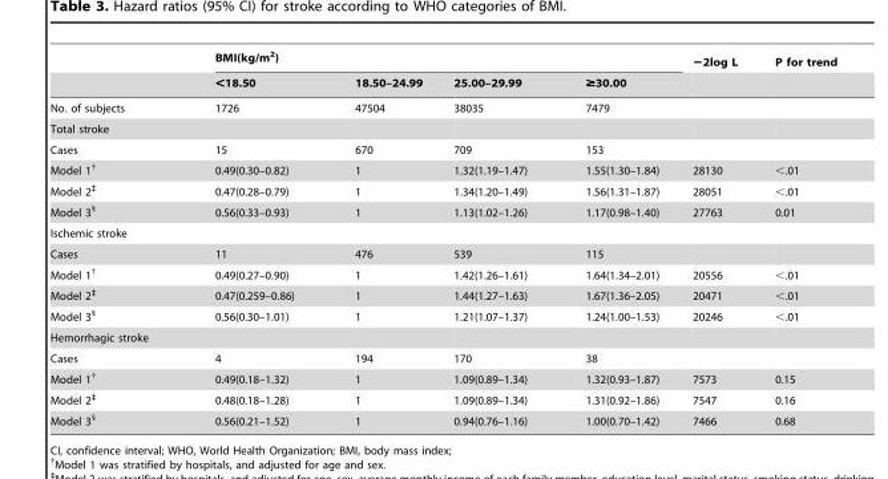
<table><thead><tr><td rowspan="2"></td><td colspan="4">BMI(kg/m<sup>2</sup>)</td><td rowspan="2">−2log L</td><td rowspan="2">P for trend</td></tr><tr><td>&lt;18.50</td><td>18.50–24.99</td><td>25.00–29.99</td><td>≥30.00</td></tr></thead><tbody><tr><td>No. of subjects</td><td>1726</td><td>47504</td><td>38035</td><td>7479</td><td></td><td></td></tr><tr><td colspan="7">Total stroke</td></tr><tr><td>Cases</td><td>15</td><td>670</td><td>709</td><td>153</td><td></td><td></td></tr><tr><td>Model 1†</td><td>0.49(0.30–0.82)</td><td>1</td><td>1.32(1.19–1.47)</td><td>1.55(1.30–1.84)</td><td>28130</td><td>&lt;.01</td></tr><tr><td>Model 2‡</td><td>0.47(0.28–0.79)</td><td>1</td><td>1.34(1.20–1.49)</td><td>1.56(1.31–1.87)</td><td>28051</td><td>&lt;.01</td></tr><tr><td>Model 3§</td><td>0.56(0.33–0.93)</td><td>1</td><td>1.13(1.02–1.26)</td><td>1.17(0.98–1.40)</td><td>27763</td><td>0.01</td></tr><tr><td colspan="7">Ischemic stroke</td></tr><tr><td>Cases</td><td>11</td><td>476</td><td>539</td><td>115</td><td></td><td></td></tr><tr><td>Model 1†</td><td>0.49(0.27–0.90)</td><td>1</td><td>1.42(1.26–1.61)</td><td>1.64(1.34–2.01)</td><td>20556</td><td>&lt;.01</td></tr><tr><td>Model 2‡</td><td>0.47(0.259–0.86)</td><td>1</td><td>1.44(1.27–1.63)</td><td>1.67(1.36–2.05)</td><td>20471</td><td>&lt;.01</td></tr><tr><td>Model 3§</td><td>0.56(0.30–1.01)</td><td>1</td><td>1.21(1.07–1.37)</td><td>1.24(1.00–1.53)</td><td>20246</td><td>&lt;.01</td></tr><tr><td colspan="7">Hemorrhagic stroke</td></tr><tr><td>Cases</td><td>4</td><td>194</td><td>170</td><td>38</td><td></td><td></td></tr><tr><td>Model 1†</td><td>0.49(0.18–1.32)</td><td>1</td><td>1.09(0.89–1.34)</td><td>1.32(0.93–1.87)</td><td>7573</td><td>0.15</td></tr><tr><td>Model 2‡</td><td>0.48(0.18–1.28)</td><td>1</td><td>1.09(0.89–1.34)</td><td>1.31(0.92–1.86)</td><td>7547</td><td>0.16</td></tr><tr><td>Model 3§</td><td>0.56(0.21–1.52)</td><td>1</td><td>0.94(0.76–1.16)</td><td>1.00(0.70–1.42)</td><td>7466</td><td>0.68</td></tr></tbody></table>